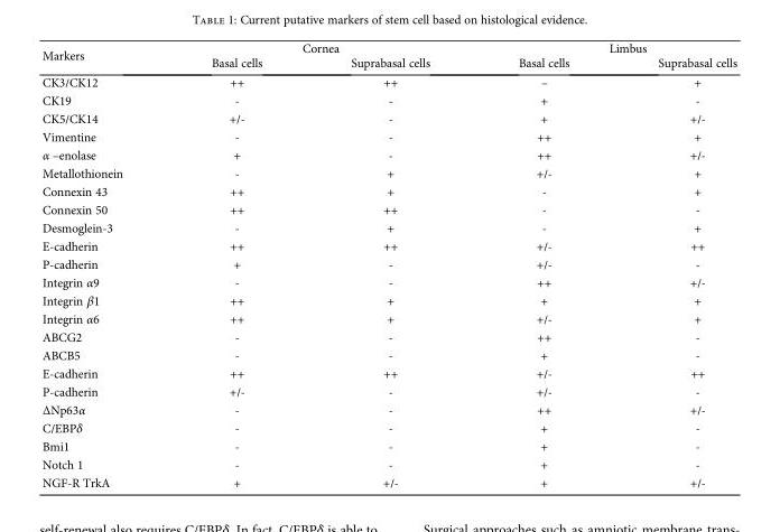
<table><thead><tr><td rowspan="2">Markers</td><td colspan="2">Cornea</td><td colspan="2">Limbus</td></tr><tr><td>Basal cells</td><td>Suprabasal cells</td><td>Basal cells</td><td>Suprabasal cells</td></tr></thead><tbody><tr><td>CK3/CK12</td><td>++</td><td>++</td><td>–</td><td>+</td></tr><tr><td>CK19</td><td>-</td><td>-</td><td>+</td><td>-</td></tr><tr><td>CK5/CK14</td><td>+/-</td><td>-</td><td>+</td><td>+/-</td></tr><tr><td>Vimentine</td><td>-</td><td>-</td><td>++</td><td>+</td></tr><tr><td>α –enolase</td><td>+</td><td>-</td><td>++</td><td>+/-</td></tr><tr><td>Metallothionein</td><td>-</td><td>+</td><td>+/-</td><td>+</td></tr><tr><td>Connexin 43</td><td>++</td><td>+</td><td>-</td><td>+</td></tr><tr><td>Connexin 50</td><td>++</td><td>++</td><td>-</td><td>-</td></tr><tr><td>Desmoglein-3</td><td>-</td><td>+</td><td>-</td><td>+</td></tr><tr><td>E-cadherin</td><td>++</td><td>++</td><td>+/-</td><td>++</td></tr><tr><td>P-cadherin</td><td>+</td><td>-</td><td>+/-</td><td>-</td></tr><tr><td>Integrin α9</td><td>-</td><td>-</td><td>++</td><td>+/-</td></tr><tr><td>Integrin β1</td><td>++</td><td>+</td><td>+</td><td>+</td></tr><tr><td>Integrin α6</td><td>++</td><td>+</td><td>+/-</td><td>+</td></tr><tr><td>ABCG2</td><td>-</td><td>-</td><td>++</td><td>-</td></tr><tr><td>ABCB5</td><td>-</td><td>-</td><td>+</td><td>-</td></tr><tr><td>E-cadherin</td><td>++</td><td>++</td><td>+/-</td><td>++</td></tr><tr><td>P-cadherin</td><td>+/-</td><td>-</td><td>+/-</td><td>-</td></tr><tr><td>ΔNp63α</td><td>-</td><td>-</td><td>++</td><td>+/-</td></tr><tr><td>C/EBPδ</td><td>-</td><td>-</td><td>+</td><td>-</td></tr><tr><td>Bmi1</td><td>-</td><td>-</td><td>+</td><td>-</td></tr><tr><td>Notch 1</td><td>-</td><td>-</td><td>+</td><td>-</td></tr><tr><td>NGF-R TrkA</td><td>+</td><td>+/-</td><td>+</td><td>+/-</td></tr></tbody></table>